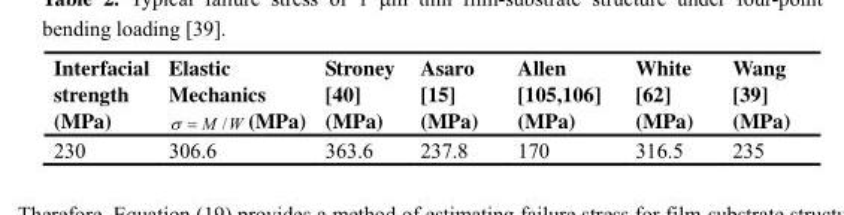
<table><thead><tr><td>Interfacial strength (MPa)</td><td>Elastic Mechanics W M / = σ (MPa)</td><td>Stroney [40] (MPa)</td><td>Asaro [15] (MPa)</td><td>Allen [105,106] (MPa)</td><td>White [62] (MPa)</td><td>Wang [39] (MPa)</td></tr></thead><tbody><tr><td>230</td><td>306.6</td><td>363.6</td><td>237.8</td><td>170</td><td>316.5</td><td>235</td></tr></tbody></table>